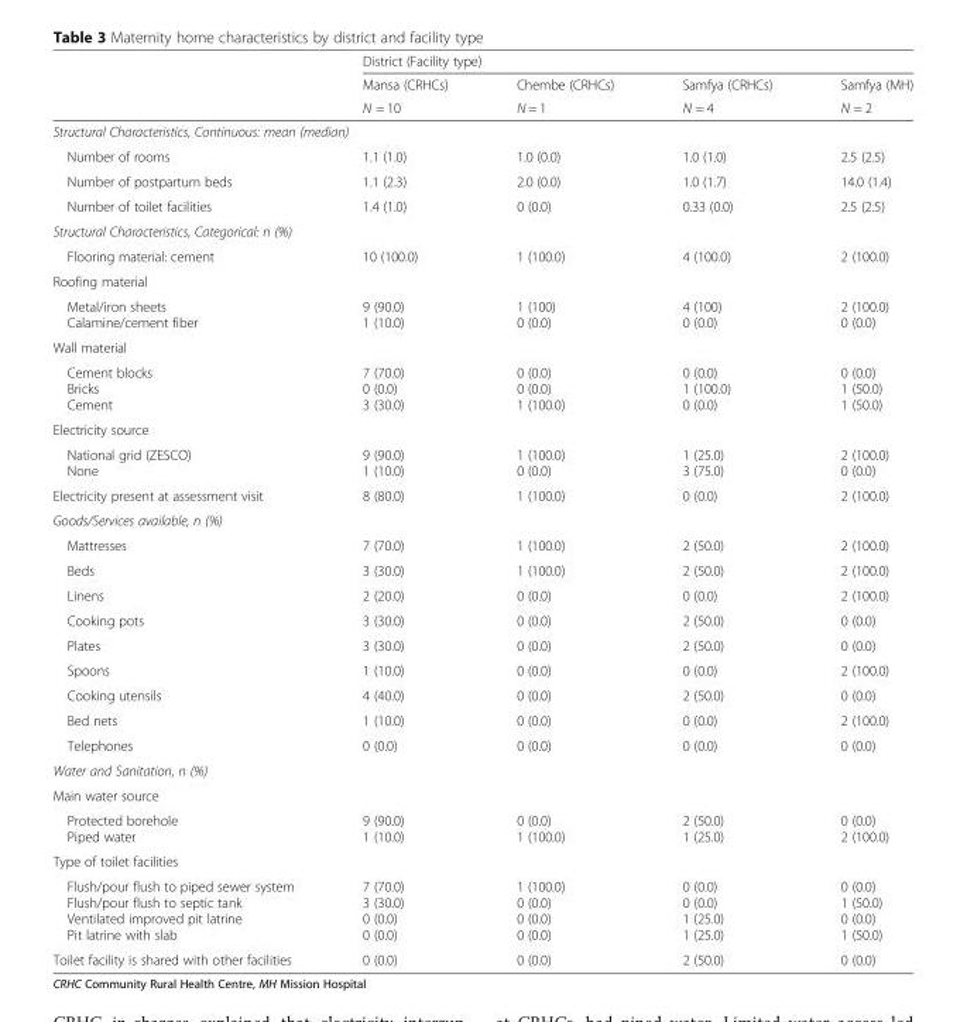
<table><thead><tr><td rowspan="3"></td><td colspan="4">District (Facility type)</td></tr><tr><td rowspan="2">Mansa (CRHCs) N = 10</td><td rowspan="2">Chembe (CRHCs) N = 1</td><td rowspan="2">Samfya (CRHCs) N = 4</td><td rowspan="2">Samfya (MH) N = 2</td></tr><tr></tr></thead><tbody><tr><td colspan="5">Structural Characteristics, Continuous: mean (median)</td></tr><tr><td>Number of rooms</td><td>1.1 (1.0)</td><td>1.0 (0.0)</td><td>1.0 (1.0)</td><td>2.5 (2.5)</td></tr><tr><td>Number of postpartum beds</td><td>1.1 (2.3)</td><td>2.0 (0.0)</td><td>1.0 (1.7)</td><td>14.0 (1.4)</td></tr><tr><td>Number of toilet facilities</td><td>1.4 (1.0)</td><td>0 (0.0)</td><td>0.33 (0.0)</td><td>2.5 (2.5)</td></tr><tr><td colspan="5">Structural Characteristics, Categorical: n (%)</td></tr><tr><td>Flooring material: cement</td><td>10 (100.0)</td><td>1 (100.0)</td><td>4 (100.0)</td><td>2 (100.0)</td></tr><tr><td colspan="5">Roofing material</td></tr><tr><td>Metal/iron sheets Calamine/cement fiber</td><td>9 (90.0) 1 (10.0)</td><td>1 (100) 0 (0.0)</td><td>4 (100) 0 (0.0)</td><td>2 (100.0) 0 (0.0)</td></tr><tr><td colspan="5">Wall material</td></tr><tr><td>Cement blocks Bricks Cement</td><td>7 (70.0) 0 (0.0) 3 (30.0)</td><td>0 (0.0) 0 (0.0) 1 (100.0)</td><td>0 (0.0) 1 (100.0) 0 (0.0)</td><td>0 (0.0) 1 (50.0) 1 (50.0)</td></tr><tr><td colspan="5">Electricity source</td></tr><tr><td>National grid (ZESCO) None</td><td>9 (90.0) 1 (10.0)</td><td>1 (100.0) 0 (0.0)</td><td>1 (25.0) 3 (75.0)</td><td>2 (100.0) 0 (0.0)</td></tr><tr><td>Electricity present at assessment visit</td><td>8 (80.0)</td><td>1 (100.0)</td><td>0 (0.0)</td><td>2 (100.0)</td></tr><tr><td colspan="5">Goods/Services available, n (%)</td></tr><tr><td>Mattresses</td><td>7 (70.0)</td><td>1 (100.0)</td><td>2 (50.0)</td><td>2 (100.0)</td></tr><tr><td>Beds</td><td>3 (30.0)</td><td>1 (100.0)</td><td>2 (50.0)</td><td>2 (100.0)</td></tr><tr><td>Linens</td><td>2 (20.0)</td><td>0 (0.0)</td><td>0 (0.0)</td><td>2 (100.0)</td></tr><tr><td>Cooking pots</td><td>3 (30.0)</td><td>0 (0.0)</td><td>2 (50.0)</td><td>0 (0.0)</td></tr><tr><td>Plates</td><td>3 (30.0)</td><td>0 (0.0)</td><td>2 (50.0)</td><td>0 (0.0)</td></tr><tr><td>Spoons</td><td>1 (10.0)</td><td>0 (0.0)</td><td>0 (0.0)</td><td>2 (100.0)</td></tr><tr><td>Cooking utensils</td><td>4 (40.0)</td><td>0 (0.0)</td><td>2 (50.0)</td><td>0 (0.0)</td></tr><tr><td>Bed nets</td><td>1 (10.0)</td><td>0 (0.0)</td><td>0 (0.0)</td><td>2 (100.0)</td></tr><tr><td>Telephones</td><td>0 (0.0)</td><td>0 (0.0)</td><td>0 (0.0)</td><td>0 (0.0)</td></tr><tr><td colspan="5">Water and Sanitation, n (%)</td></tr><tr><td colspan="5">Main water source</td></tr><tr><td>Protected borehole Piped water</td><td>9 (90.0) 1 (10.0)</td><td>0 (0.0) 1 (100.0)</td><td>2 (50.0) 1 (25.0)</td><td>0 (0.0) 2 (100.0)</td></tr><tr><td colspan="5">Type of toilet facilities</td></tr><tr><td>Flush/pour flush to piped sewer system Flush/pour flush to septic tank Ventilated improved pit latrine Pit latrine with slab</td><td>7 (70.0) 3 (30.0) 0 (0.0) 0 (0.0)</td><td>1 (100.0) 0 (0.0) 0 (0.0) 0 (0.0)</td><td>0 (0.0) 0 (0.0) 1 (25.0) 1 (25.0)</td><td>0 (0.0) 1 (50.0) 0 (0.0) 1 (50.0)</td></tr><tr><td>Toilet facility is shared with other facilities</td><td>0 (0.0)</td><td>0 (0.0)</td><td>2 (50.0)</td><td>0 (0.0)</td></tr></tbody></table>